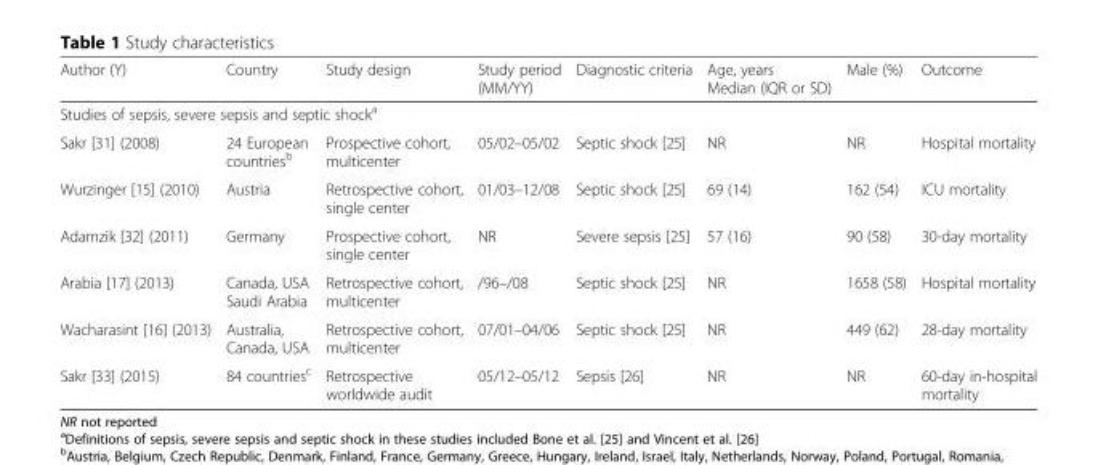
<table><thead><tr><td>Author (Y)</td><td>Country</td><td>Study design</td><td>Study period (MM/YY)</td><td>Diagnostic criteria</td><td>Age, years Median (IQR or SD)</td><td>Male (%)</td><td>Outcome</td></tr></thead><tbody><tr><td colspan="8">Studies of sepsis, severe sepsis and septic shock<sup>a</sup></td></tr><tr><td>Sakr [31] (2008)</td><td>24 European countries<sup>b</sup></td><td>Prospective cohort, multicenter</td><td>05/02–05/02</td><td>Septic shock [25]</td><td>NR</td><td>NR</td><td>Hospital mortality</td></tr><tr><td>Wurzinger [15] (2010)</td><td>Austria</td><td>Retrospective cohort, single center</td><td>01/03–12/08</td><td>Septic shock [25]</td><td>69 (14)</td><td>162 (54)</td><td>ICU mortality</td></tr><tr><td>Adamzik [32] (2011)</td><td>Germany</td><td>Prospective cohort, single center</td><td>NR</td><td>Severe sepsis [25]</td><td>57 (16)</td><td>90 (58)</td><td>30-day mortality</td></tr><tr><td>Arabia [17] (2013)</td><td>Canada, USA Saudi Arabia</td><td>Retrospective cohort, multicenter</td><td>/96–/08</td><td>Septic shock [25]</td><td>NR</td><td>1658 (58)</td><td>Hospital mortality</td></tr><tr><td>Wacharasint [16] (2013)</td><td>Australia, Canada, USA</td><td>Retrospective cohort, multicenter</td><td>07/01–04/06</td><td>Septic shock [25]</td><td>NR</td><td>449 (62)</td><td>28-day mortality</td></tr><tr><td>Sakr [33] (2015)</td><td>84 countries<sup>c</sup></td><td>Retrospective worldwide audit</td><td>05/12–05/12</td><td>Sepsis [26]</td><td>NR</td><td>NR</td><td>60-day in-hospital mortality</td></tr></tbody></table>